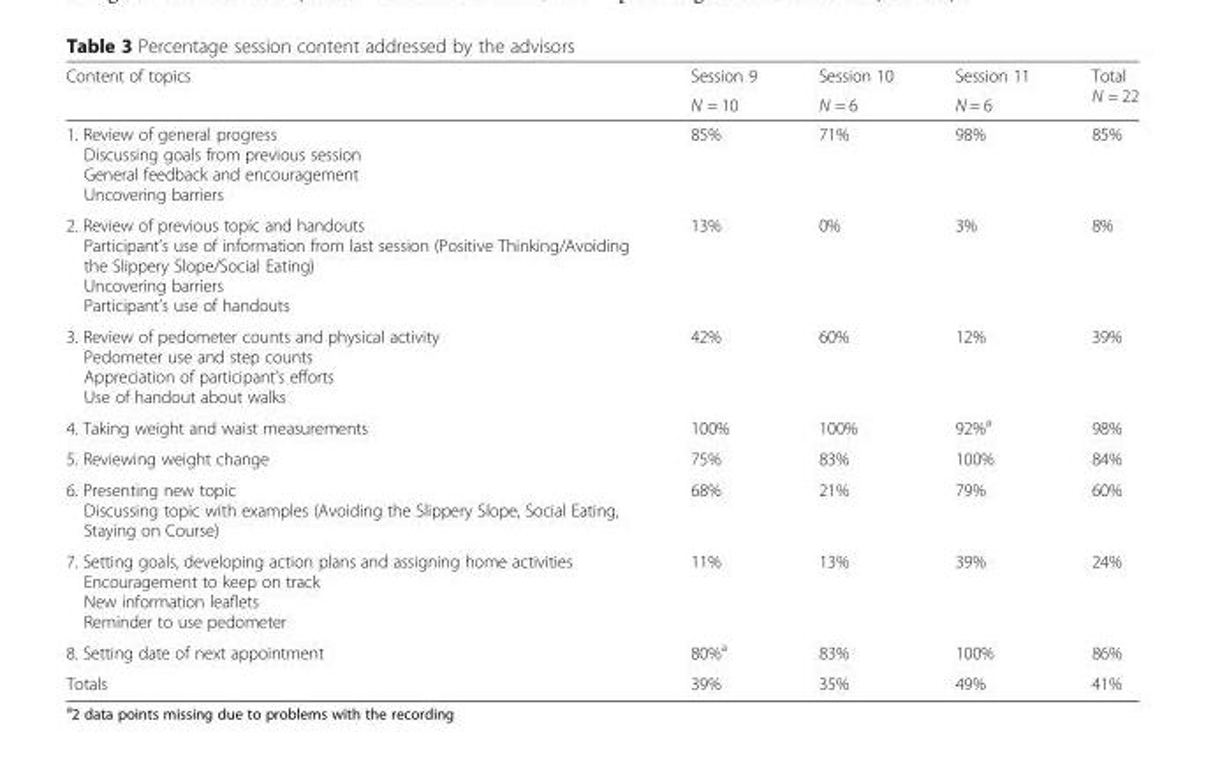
<table><thead><tr><td rowspan="2">Content of topics</td><td rowspan="2">Session 9 N = 10</td><td rowspan="2">Session 10 N = 6</td><td rowspan="2">Session 11 N = 6</td><td rowspan="2">Total N = 22</td></tr><tr></tr></thead><tbody><tr><td>1. Review of general progress Discussing goals from previous session General feedback and encouragement Uncovering barriers</td><td>85%</td><td>71%</td><td>98%</td><td>85%</td></tr><tr><td>2. Review of previous topic and handouts Participant’s use of information from last session (Positive Thinking/Avoiding the Slippery Slope/Social Eating) Uncovering barriers Participant’s use of handouts</td><td>13%</td><td>0%</td><td>3%</td><td>8%</td></tr><tr><td>3. Review of pedometer counts and physical activity Pedometer use and step counts Appreciation of participant’s efforts Use of handout about walks</td><td>42%</td><td>60%</td><td>12%</td><td>39%</td></tr><tr><td>4. Taking weight and waist measurements</td><td>100%</td><td>100%</td><td>92%<sup>a</sup></td><td>98%</td></tr><tr><td>5. Reviewing weight change</td><td>75%</td><td>83%</td><td>100%</td><td>84%</td></tr><tr><td>6. Presenting new topic Discussing topic with examples (Avoiding the Slippery Slope, Social Eating, Staying on Course)</td><td>68%</td><td>21%</td><td>79%</td><td>60%</td></tr><tr><td>7. Setting goals, developing action plans and assigning home activities Encouragement to keep on track New information leaflets Reminder to use pedometer</td><td>11%</td><td>13%</td><td>39%</td><td>24%</td></tr><tr><td>8. Setting date of next appointment</td><td>80%<sup>a</sup></td><td>83%</td><td>100%</td><td>86%</td></tr><tr><td>Totals</td><td>39%</td><td>35%</td><td>49%</td><td>41%</td></tr></tbody></table>